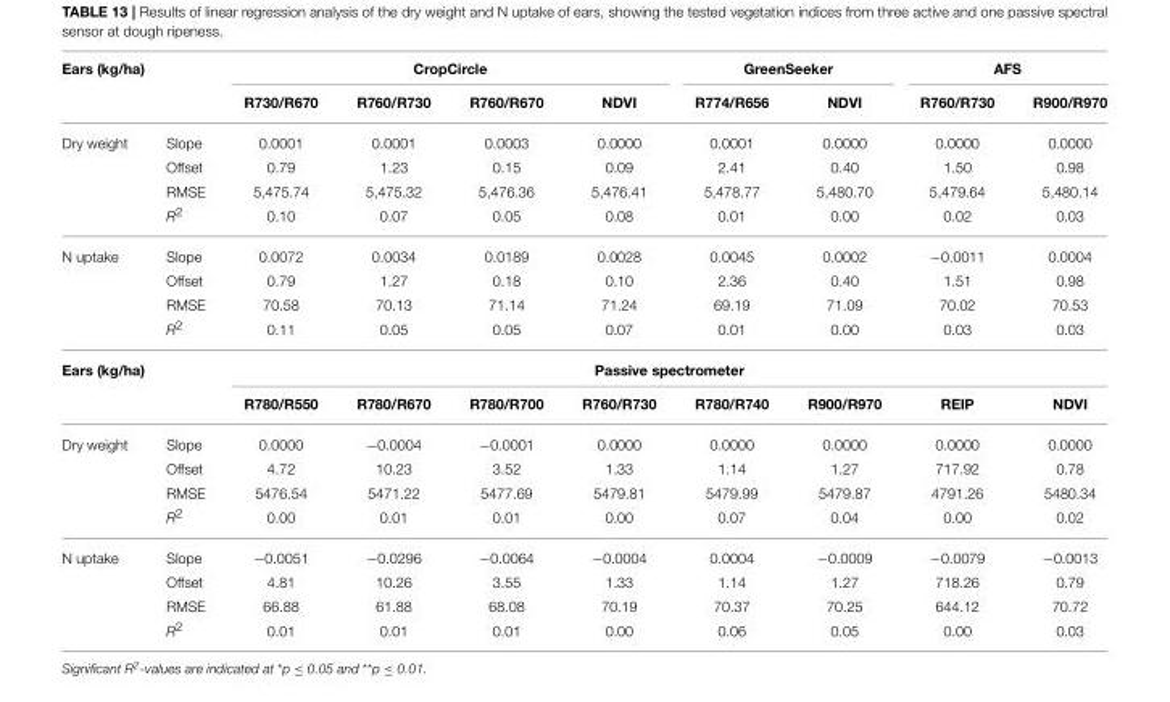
<table><thead><tr><td colspan="2">Ears (kg/ha)</td><td colspan="4">CropCircle</td><td colspan="2">GreenSeeker</td><td colspan="2">AFS</td></tr><tr><td></td><td></td><td>R730/R670</td><td>R760/R730</td><td>R760/R670</td><td>NDVI</td><td>R774/R656</td><td>NDVI</td><td>R760/R730</td><td>R900/R970</td></tr></thead><tbody><tr><td rowspan="4">Dry weight</td><td>Slope</td><td>0.0001</td><td>0.0001</td><td>0.0003</td><td>0.0000</td><td>0.0001</td><td>0.0000</td><td>0.0000</td><td>0.0000</td></tr><tr><td>Offset</td><td>0.79</td><td>1.23</td><td>0.15</td><td>0.09</td><td>2.41</td><td>0.40</td><td>1.50</td><td>0.98</td></tr><tr><td>RMSE</td><td>5,475.74</td><td>5,475.32</td><td>5,476.36</td><td>5,476.41</td><td>5,478.77</td><td>5,480.70</td><td>5,479.64</td><td>5,480.14</td></tr><tr><td>R<sup>2</sup></td><td>0.10</td><td>0.07</td><td>0.05</td><td>0.08</td><td>0.01</td><td>0.00</td><td>0.02</td><td>0.03</td></tr><tr><td rowspan="4">N uptake</td><td>Slope</td><td>0.0072</td><td>0.0034</td><td>0.0189</td><td>0.0028</td><td>0.0045</td><td>0.0002</td><td>−0.0011</td><td>0.0004</td></tr><tr><td>Offset</td><td>0.79</td><td>1.27</td><td>0.18</td><td>0.10</td><td>2.36</td><td>0.40</td><td>1.51</td><td>0.98</td></tr><tr><td>RMSE</td><td>70.58</td><td>70.13</td><td>71.14</td><td>71.24</td><td>69.19</td><td>71.09</td><td>70.02</td><td>70.53</td></tr><tr><td>R<sup>2</sup></td><td>0.11</td><td>0.05</td><td>0.05</td><td>0.07</td><td>0.01</td><td>0.00</td><td>0.03</td><td>0.03</td></tr><tr><td colspan="2">Ears (kg/ha)</td><td colspan="8">Passive spectrometer</td></tr><tr><td></td><td></td><td>R780/R550</td><td>R780/R670</td><td>R780/R700</td><td>R760/R730</td><td>R780/R740</td><td>R900/R970</td><td>REIP</td><td>NDVI</td></tr><tr><td rowspan="4">Dry weight</td><td>Slope</td><td>0.0000</td><td>−0.0004</td><td>−0.0001</td><td>0.0000</td><td>0.0000</td><td>0.0000</td><td>0.0000</td><td>0.0000</td></tr><tr><td>Offset</td><td>4.72</td><td>10.23</td><td>3.52</td><td>1.33</td><td>1.14</td><td>1.27</td><td>717.92</td><td>0.78</td></tr><tr><td>RMSE</td><td>5476.54</td><td>5471.22</td><td>5477.69</td><td>5479.81</td><td>5479.99</td><td>5479.87</td><td>4791.26</td><td>5480.34</td></tr><tr><td>R<sup>2</sup></td><td>0.00</td><td>0.01</td><td>0.01</td><td>0.00</td><td>0.07</td><td>0.04</td><td>0.00</td><td>0.02</td></tr><tr><td rowspan="4">N uptake</td><td>Slope</td><td>−0.0051</td><td>−0.0296</td><td>−0.0064</td><td>−0.0004</td><td>0.0004</td><td>−0.0009</td><td>−0.0079</td><td>−0.0013</td></tr><tr><td>Offset</td><td>4.81</td><td>10.26</td><td>3.55</td><td>1.33</td><td>1.14</td><td>1.27</td><td>718.26</td><td>0.79</td></tr><tr><td>RMSE</td><td>66.88</td><td>61.88</td><td>68.08</td><td>70.19</td><td>70.37</td><td>70.25</td><td>644.12</td><td>70.72</td></tr><tr><td>R<sup>2</sup></td><td>0.01</td><td>0.01</td><td>0.01</td><td>0.00</td><td>0.06</td><td>0.05</td><td>0.00</td><td>0.03</td></tr></tbody></table>